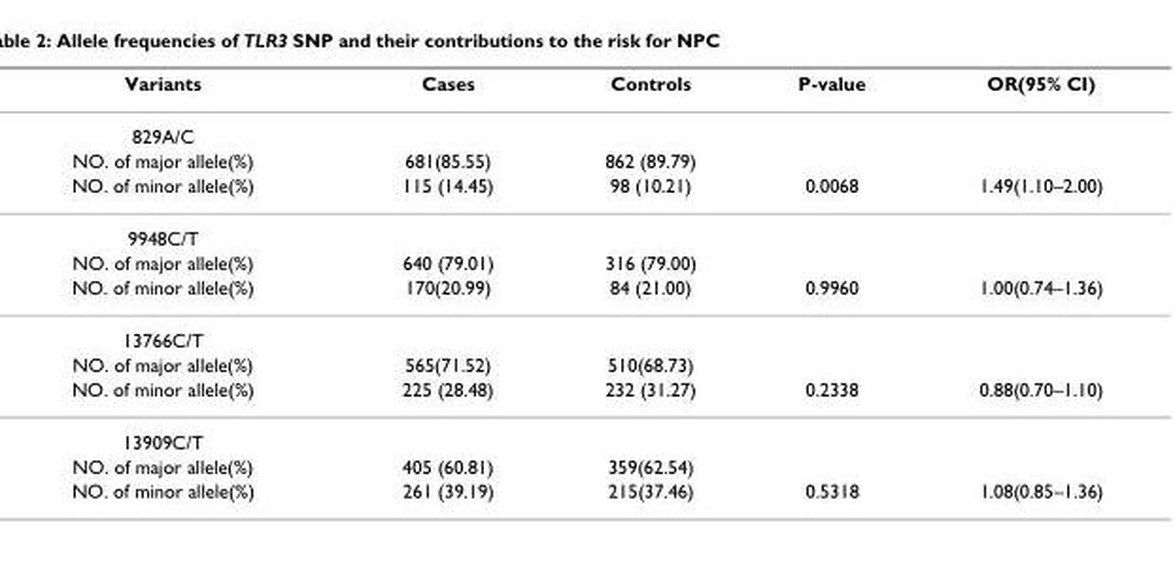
<table><thead><tr><td>Variants</td><td>Cases</td><td>Controls</td><td>P-value</td><td>OR(95% CI)</td></tr></thead><tbody><tr><td colspan="5">829A/C</td></tr><tr><td>NO. of major allele(%)</td><td>681(85.55)</td><td>862 (89.79)</td><td></td><td></td></tr><tr><td>NO. of minor allele(%)</td><td>115 (14.45)</td><td>98 (10.21)</td><td>0.0068</td><td>1.49(1.10–2.00)</td></tr><tr><td colspan="5">9948C/T</td></tr><tr><td>NO. of major allele(%)</td><td>640 (79.01)</td><td>316 (79.00)</td><td></td><td></td></tr><tr><td>NO. of minor allele(%)</td><td>170(20.99)</td><td>84 (21.00)</td><td>0.9960</td><td>1.00(0.74–1.36)</td></tr><tr><td colspan="5">13766C/T</td></tr><tr><td>NO. of major allele(%)</td><td>565(71.52)</td><td>510(68.73)</td><td></td><td></td></tr><tr><td>NO. of minor allele(%)</td><td>225 (28.48)</td><td>232 (31.27)</td><td>0.2338</td><td>0.88(0.70–1.10)</td></tr><tr><td colspan="5">13909C/T</td></tr><tr><td>NO. of major allele(%)</td><td>405 (60.81)</td><td>359(62.54)</td><td></td><td></td></tr><tr><td>NO. of minor allele(%)</td><td>261 (39.19)</td><td>215(37.46)</td><td>0.5318</td><td>1.08(0.85–1.36)</td></tr></tbody></table>